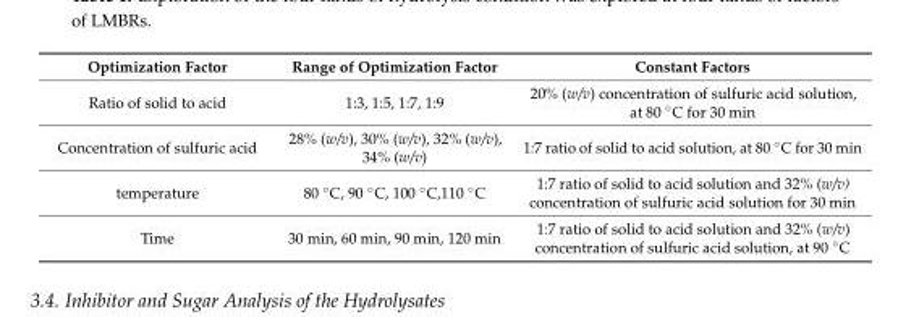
<table><thead><tr><td>Optimization Factor</td><td>Range of Optimization Factor</td><td>Constant Factors</td></tr></thead><tbody><tr><td>Ratio of solid to acid</td><td>1:3, 1:5, 1:7, 1:9</td><td>20% (w/v) concentration of sulfuric acid solution, at 80 ◦C for 30 min</td></tr><tr><td>Concentration of sulfuric acid</td><td>28% (w/v), 30% (w/v), 32% (w/v), 34% (w/v)</td><td>1:7 ratio of solid to acid solution, at 80 ◦C for 30 min</td></tr><tr><td>temperature</td><td>80 ◦C, 90 ◦C, 100 ◦C,110 ◦C</td><td>1:7 ratio of solid to acid solution and 32% (w/v) concentration of sulfuric acid solution for 30 min</td></tr><tr><td>Time</td><td>30 min, 60 min, 90 min, 120 min</td><td>1:7 ratio of solid to acid solution and 32% (w/v) concentration of sulfuric acid solution, at 90 ◦C</td></tr></tbody></table>